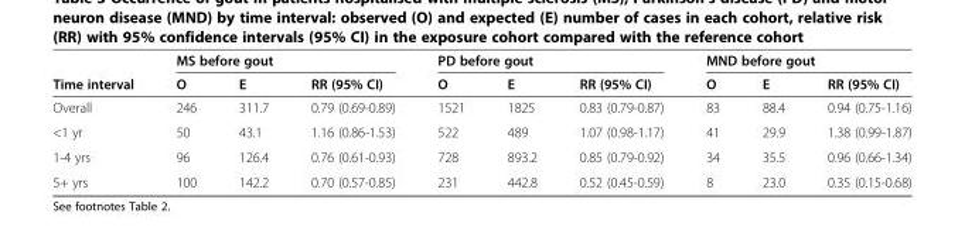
<table><thead><tr><td rowspan="2">Time interval</td><td colspan="3">MS before gout</td><td colspan="3">PD before gout</td><td colspan="3">MND before gout</td></tr><tr><td>O</td><td>E</td><td>RR (95% CI)</td><td>O</td><td>E</td><td>RR (95% CI)</td><td>O</td><td>E</td><td>RR (95% CI)</td></tr></thead><tbody><tr><td>Overall</td><td>246</td><td>311.7</td><td>0.79 (0.69-0.89)</td><td>1521</td><td>1825</td><td>0.83 (0.79-0.87)</td><td>83</td><td>88.4</td><td>0.94 (0.75-1.16)</td></tr><tr><td>&lt;1 yr</td><td>50</td><td>43.1</td><td>1.16 (0.86-1.53)</td><td>522</td><td>489</td><td>1.07 (0.98-1.17)</td><td>41</td><td>29.9</td><td>1.38 (0.99-1.87)</td></tr><tr><td>1-4 yrs</td><td>96</td><td>126.4</td><td>0.76 (0.61-0.93)</td><td>728</td><td>893.2</td><td>0.85 (0.79-0.92)</td><td>34</td><td>35.5</td><td>0.96 (0.66-1.34)</td></tr><tr><td>5+ yrs</td><td>100</td><td>142.2</td><td>0.70 (0.57-0.85)</td><td>231</td><td>442.8</td><td>0.52 (0.45-0.59)</td><td>8</td><td>23.0</td><td>0.35 (0.15-0.68)</td></tr></tbody></table>